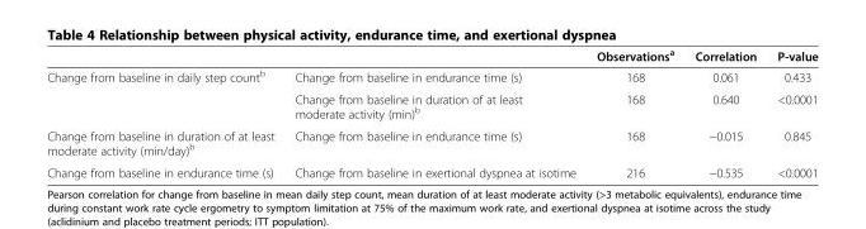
<table><thead><tr><td></td><td></td><td>Observations<sup>a</sup></td><td>Correlation</td><td>P-value</td></tr></thead><tbody><tr><td rowspan="2">Change from baseline in daily step count<sup>b</sup></td><td>Change from baseline in endurance time (s)</td><td>168</td><td>0.061</td><td>0.433</td></tr><tr><td>Change from baseline in duration of at least moderate activity (min)<sup>b</sup></td><td>168</td><td>0.640</td><td>&lt;0.0001</td></tr><tr><td>Change from baseline in duration of at least moderate activity (min/day)<sup>b</sup></td><td>Change from baseline in endurance time (s)</td><td>168</td><td>−0.015</td><td>0.845</td></tr><tr><td>Change from baseline in endurance time (s)</td><td>Change from baseline in exertional dyspnea at isotime</td><td>216</td><td>−0.535</td><td>&lt;0.0001</td></tr></tbody></table>